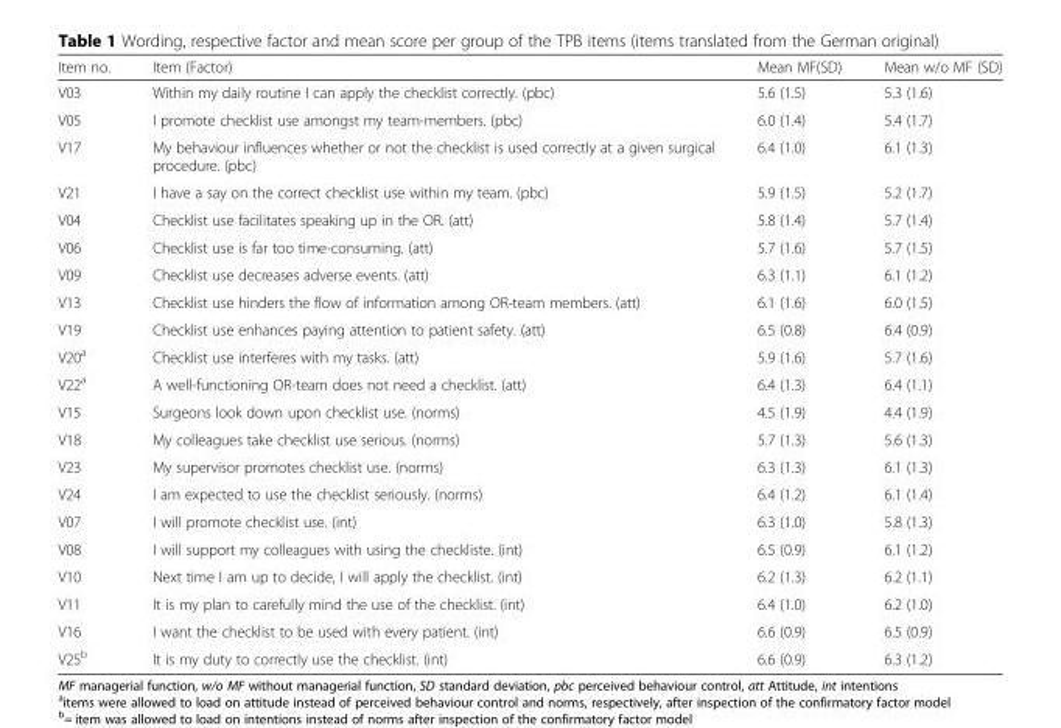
<table><thead><tr><td>Item no.</td><td>Item (Factor)</td><td>Mean MF(SD)</td><td>Mean w/o MF (SD)</td></tr></thead><tbody><tr><td>V03</td><td>Within my daily routine I can apply the checklist correctly. (pbc)</td><td>5.6 (1.5)</td><td>5.3 (1.6)</td></tr><tr><td>V05</td><td>I promote checklist use amongst my team-members. (pbc)</td><td>6.0 (1.4)</td><td>5.4 (1.7)</td></tr><tr><td>V17</td><td>My behaviour influences whether or not the checklist is used correctly at a given surgical procedure. (pbc)</td><td>6.4 (1.0)</td><td>6.1 (1.3)</td></tr><tr><td>V21</td><td>I have a say on the correct checklist use within my team. (pbc)</td><td>5.9 (1.5)</td><td>5.2 (1.7)</td></tr><tr><td>V04</td><td>Checklist use facilitates speaking up in the OR. (att)</td><td>5.8 (1.4)</td><td>5.7 (1.4)</td></tr><tr><td>V06</td><td>Checklist use is far too time-consuming. (att)</td><td>5.7 (1.6)</td><td>5.7 (1.5)</td></tr><tr><td>V09</td><td>Checklist use decreases adverse events. (att)</td><td>6.3 (1.1)</td><td>6.1 (1.2)</td></tr><tr><td>V13</td><td>Checklist use hinders the flow of information among OR-team members. (att)</td><td>6.1 (1.6)</td><td>6.0 (1.5)</td></tr><tr><td>V19</td><td>Checklist use enhances paying attention to patient safety. (att)</td><td>6.5 (0.8)</td><td>6.4 (0.9)</td></tr><tr><td>V20<sup>a</sup></td><td>Checklist use interferes with my tasks. (att)</td><td>5.9 (1.6)</td><td>5.7 (1.6)</td></tr><tr><td>V22<sup>a</sup></td><td>A well-functioning OR-team does not need a checklist. (att)</td><td>6.4 (1.3)</td><td>6.4 (1.1)</td></tr><tr><td>V15</td><td>Surgeons look down upon checklist use. (norms)</td><td>4.5 (1.9)</td><td>4.4 (1.9)</td></tr><tr><td>V18</td><td>My colleagues take checklist use serious. (norms)</td><td>5.7 (1.3)</td><td>5.6 (1.3)</td></tr><tr><td>V23</td><td>My supervisor promotes checklist use. (norms)</td><td>6.3 (1.3)</td><td>6.1 (1.3)</td></tr><tr><td>V24</td><td>I am expected to use the checklist seriously. (norms)</td><td>6.4 (1.2)</td><td>6.1 (1.4)</td></tr><tr><td>V07</td><td>I will promote checklist use. (int)</td><td>6.3 (1.0)</td><td>5.8 (1.3)</td></tr><tr><td>V08</td><td>I will support my colleagues with using the checkliste. (int)</td><td>6.5 (0.9)</td><td>6.1 (1.2)</td></tr><tr><td>V10</td><td>Next time I am up to decide, I will apply the checklist. (int)</td><td>6.2 (1.3)</td><td>6.2 (1.1)</td></tr><tr><td>V11</td><td>It is my plan to carefully mind the use of the checklist. (int)</td><td>6.4 (1.0)</td><td>6.2 (1.0)</td></tr><tr><td>V16</td><td>I want the checklist to be used with every patient. (int)</td><td>6.6 (0.9)</td><td>6.5 (0.9)</td></tr><tr><td>V25<sup>b</sup></td><td>It is my duty to correctly use the checklist. (int)</td><td>6.6 (0.9)</td><td>6.3 (1.2)</td></tr></tbody></table>